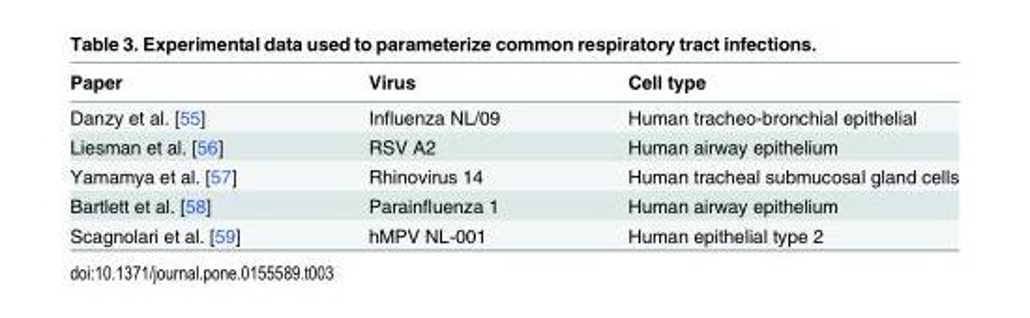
<table><thead><tr><td>Paper</td><td>Virus</td><td>Cell type</td></tr></thead><tbody><tr><td>Danzy et al. [55]</td><td>Influenza NL/09</td><td>Human tracheo-bronchial epithelial</td></tr><tr><td>Liesman et al. [56]</td><td>RSV A2</td><td>Human airway epithelium</td></tr><tr><td>Yamamya et al. [57]</td><td>Rhinovirus 14</td><td>Human tracheal submucosal gland cells</td></tr><tr><td>Bartlett et al. [58]</td><td>Parainfluenza 1</td><td>Human airway epithelium</td></tr><tr><td>Scagnolari et al. [59]</td><td>hMPV NL-001</td><td>Human epithelial type 2</td></tr></tbody></table>